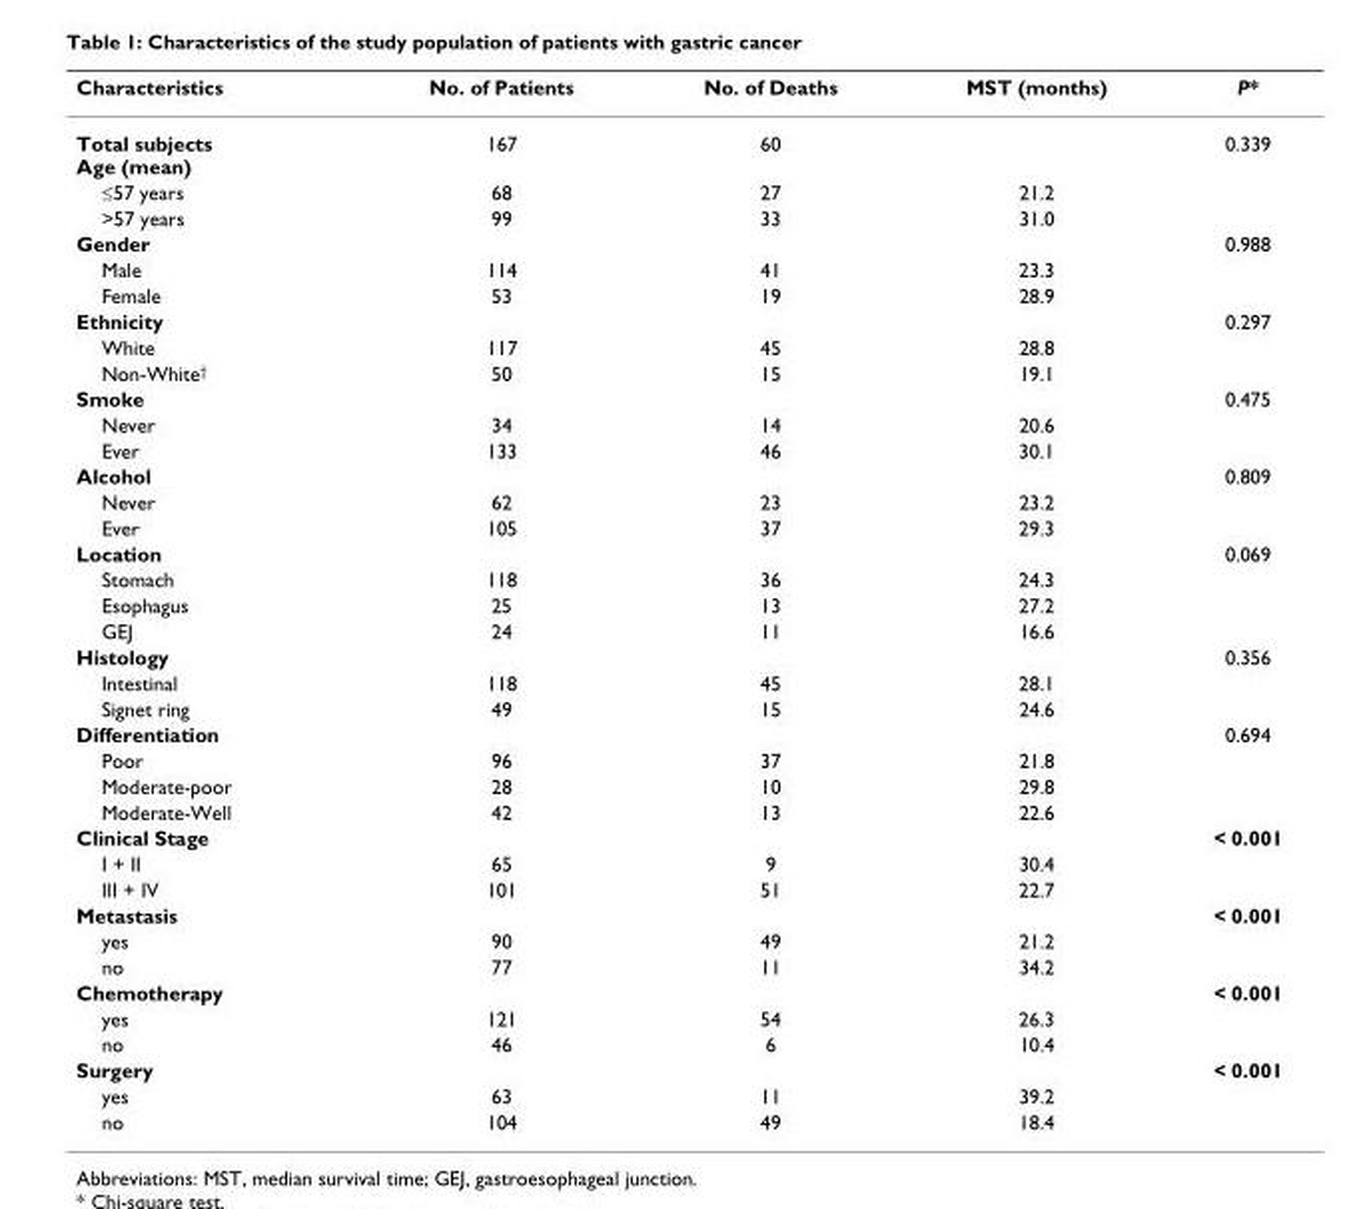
<table><thead><tr><td>Characteristics</td><td>No. of Patients</td><td>No. of Deaths</td><td>MST (months)</td><td>P*</td></tr></thead><tbody><tr><td>Total subjects Age (mean)</td><td>167</td><td>60</td><td></td><td>0.339</td></tr><tr><td>≤57 years</td><td>68</td><td>27</td><td>21.2</td><td></td></tr><tr><td>&gt;57 years</td><td>99</td><td>33</td><td>31.0</td><td></td></tr><tr><td>Gender</td><td></td><td></td><td></td><td>0.988</td></tr><tr><td>Male</td><td>114</td><td>41</td><td>23.3</td><td></td></tr><tr><td>Female</td><td>53</td><td>19</td><td>28.9</td><td></td></tr><tr><td>Ethnicity</td><td></td><td></td><td></td><td>0.297</td></tr><tr><td>White</td><td>117</td><td>45</td><td>28.8</td><td></td></tr><tr><td>Non-White<sup>†</sup></td><td>50</td><td>15</td><td>19.1</td><td></td></tr><tr><td>Smoke</td><td></td><td></td><td></td><td>0.475</td></tr><tr><td>Never</td><td>34</td><td>14</td><td>20.6</td><td></td></tr><tr><td>Ever</td><td>133</td><td>46</td><td>30.1</td><td></td></tr><tr><td>Alcohol</td><td></td><td></td><td></td><td>0.809</td></tr><tr><td>Never</td><td>62</td><td>23</td><td>23.2</td><td></td></tr><tr><td>Ever</td><td>105</td><td>37</td><td>29.3</td><td></td></tr><tr><td>Location</td><td></td><td></td><td></td><td>0.069</td></tr><tr><td>Stomach</td><td>118</td><td>36</td><td>24.3</td><td></td></tr><tr><td>Esophagus</td><td>25</td><td>13</td><td>27.2</td><td></td></tr><tr><td>GEJ</td><td>24</td><td>11</td><td>16.6</td><td></td></tr><tr><td>Histology</td><td></td><td></td><td></td><td>0.356</td></tr><tr><td>Intestinal</td><td>118</td><td>45</td><td>28.1</td><td></td></tr><tr><td>Signet ring</td><td>49</td><td>15</td><td>24.6</td><td></td></tr><tr><td>Differentiation</td><td></td><td></td><td></td><td>0.694</td></tr><tr><td>Poor</td><td>96</td><td>37</td><td>21.8</td><td></td></tr><tr><td>Moderate-poor</td><td>28</td><td>10</td><td>29.8</td><td></td></tr><tr><td>Moderate-Well</td><td>42</td><td>13</td><td>22.6</td><td></td></tr><tr><td>Clinical Stage</td><td></td><td></td><td></td><td>&lt; 0.001</td></tr><tr><td>I + II</td><td>65</td><td>9</td><td>30.4</td><td></td></tr><tr><td>III + IV</td><td>101</td><td>51</td><td>22.7</td><td></td></tr><tr><td>Metastasis</td><td></td><td></td><td></td><td>&lt; 0.001</td></tr><tr><td>yes</td><td>90</td><td>49</td><td>21.2</td><td></td></tr><tr><td>no</td><td>77</td><td>11</td><td>34.2</td><td></td></tr><tr><td>Chemotherapy</td><td></td><td></td><td></td><td>&lt; 0.001</td></tr><tr><td>yes</td><td>121</td><td>54</td><td>26.3</td><td></td></tr><tr><td>no</td><td>46</td><td>6</td><td>10.4</td><td></td></tr><tr><td>Surgery</td><td></td><td></td><td></td><td>&lt; 0.001</td></tr><tr><td>yes</td><td>63</td><td>11</td><td>39.2</td><td></td></tr><tr><td>no</td><td>104</td><td>49</td><td>18.4</td><td></td></tr></tbody></table>